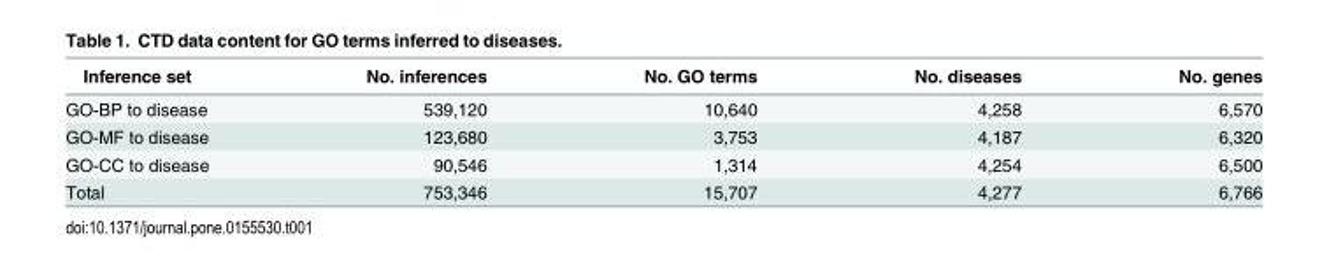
<table><thead><tr><td>Inference set</td><td>No. inferences</td><td>No. GO terms</td><td>No. diseases</td><td>No. genes</td></tr></thead><tbody><tr><td>GO-BP to disease</td><td>539,120</td><td>10,640</td><td>4,258</td><td>6,570</td></tr><tr><td>GO-MF to disease</td><td>123,680</td><td>3,753</td><td>4,187</td><td>6,320</td></tr><tr><td>GO-CC to disease</td><td>90,546</td><td>1,314</td><td>4,254</td><td>6,500</td></tr><tr><td>Total</td><td>753,346</td><td>15,707</td><td>4,277</td><td>6,766</td></tr></tbody></table>